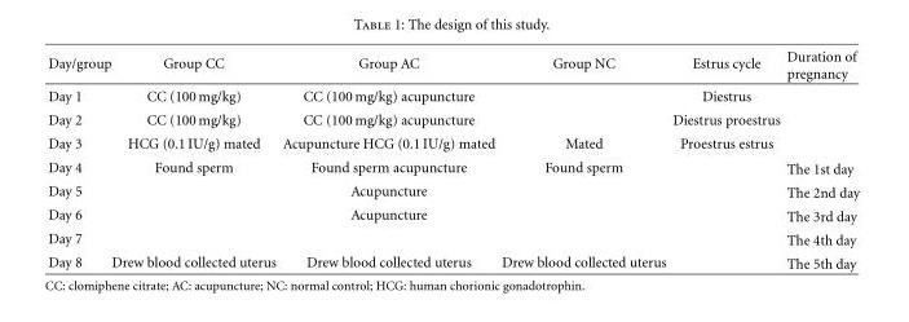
<table><thead><tr><td>Day/group</td><td>Group CC</td><td>Group AC</td><td>Group NC</td><td>Estrus cycle</td><td>Duration of pregnancy</td></tr></thead><tbody><tr><td>Day 1</td><td>CC (100 mg/kg)</td><td>CC (100 mg/kg) acupuncture</td><td></td><td>Diestrus</td><td></td></tr><tr><td>Day 2</td><td>CC (100 mg/kg)</td><td>CC (100 mg/kg) acupuncture</td><td></td><td>Diestrus proestrus</td><td></td></tr><tr><td>Day 3</td><td>HCG (0.1 IU/g) mated</td><td>Acupuncture HCG (0.1 IU/g) mated</td><td>Mated</td><td>Proestrus estrus</td><td></td></tr><tr><td>Day 4</td><td>Found sperm</td><td>Found sperm acupuncture</td><td>Found sperm</td><td></td><td>The 1st day</td></tr><tr><td>Day 5</td><td></td><td>Acupuncture</td><td></td><td></td><td>The 2nd day</td></tr><tr><td>Day 6</td><td></td><td>Acupuncture</td><td></td><td></td><td>The 3rd day</td></tr><tr><td>Day 7</td><td></td><td></td><td></td><td></td><td>The 4th day</td></tr><tr><td>Day 8</td><td>Drew blood collected uterus</td><td>Drew blood collected uterus</td><td>Drew blood collected uterus</td><td></td><td>The 5th day</td></tr></tbody></table>